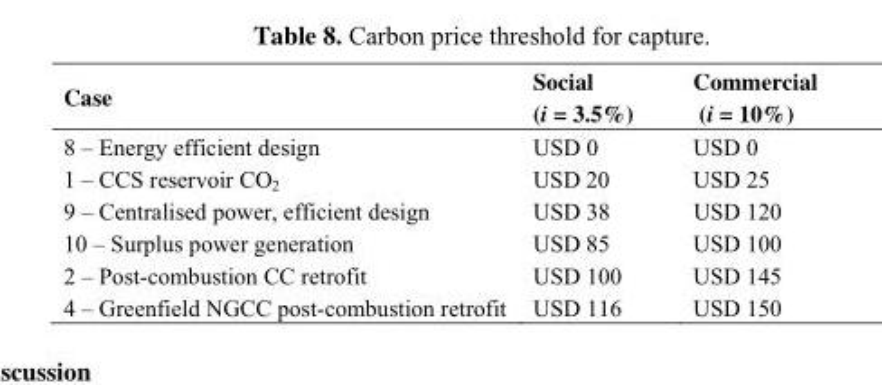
<table><thead><tr><td>Case</td><td>Social (i = 3.5%)</td><td>Commercial (i = 10%)</td></tr></thead><tbody><tr><td>8 – Energy efficient design</td><td>USD 0</td><td>USD 0</td></tr><tr><td>1 – CCS reservoir CO<sub>2</sub></td><td>USD 20</td><td>USD 25</td></tr><tr><td>9 – Centralised power, efficient design</td><td>USD 38</td><td>USD 120</td></tr><tr><td>10 – Surplus power generation</td><td>USD 85</td><td>USD 100</td></tr><tr><td>2 – Post-combustion CC retrofit</td><td>USD 100</td><td>USD 145</td></tr><tr><td>4 – Greenfield NGCC post-combustion retrofit</td><td>USD 116</td><td>USD 150</td></tr></tbody></table>